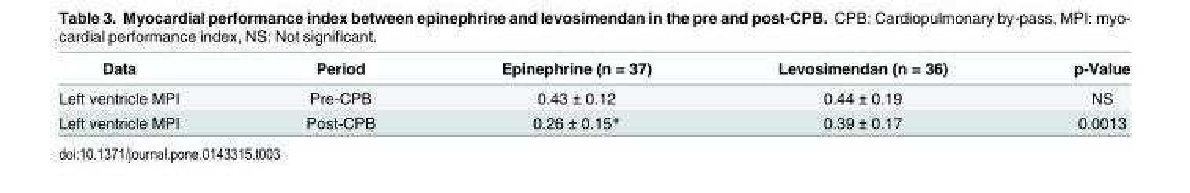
<table><thead><tr><td>Data</td><td>Period</td><td>Epinephrine (n = 37)</td><td>Levosimendan (n = 36)</td><td>p-Value</td></tr></thead><tbody><tr><td>Left ventricle MPI</td><td>Pre-CPB</td><td>0.43 ± 0.12</td><td>0.44 ± 0.19</td><td>NS</td></tr><tr><td>Left ventricle MPI</td><td>Post-CPB</td><td>0.26 ± 0.15*</td><td>0.39 ± 0.17</td><td>0.0013</td></tr></tbody></table>